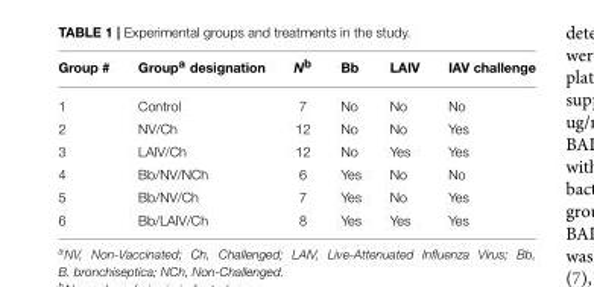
<table><thead><tr><td>Group #</td><td>Group<sup>a</sup> designation</td><td>N<sup>b</sup></td><td>Bb</td><td>LAIV</td><td>IAV challenge</td></tr></thead><tbody><tr><td>1</td><td>Control</td><td>7</td><td>No</td><td>No</td><td>No</td></tr><tr><td>2</td><td>NV/Ch</td><td>12</td><td>No</td><td>No</td><td>Yes</td></tr><tr><td>3</td><td>LAIV/Ch</td><td>12</td><td>No</td><td>Yes</td><td>Yes</td></tr><tr><td>4</td><td>Bb/NV/NCh</td><td>6</td><td>Yes</td><td>No</td><td>No</td></tr><tr><td>5</td><td>Bb/NV/Ch</td><td>7</td><td>Yes</td><td>No</td><td>Yes</td></tr><tr><td>6</td><td>Bb/LAIV/Ch</td><td>8</td><td>Yes</td><td>Yes</td><td>Yes</td></tr></tbody></table>